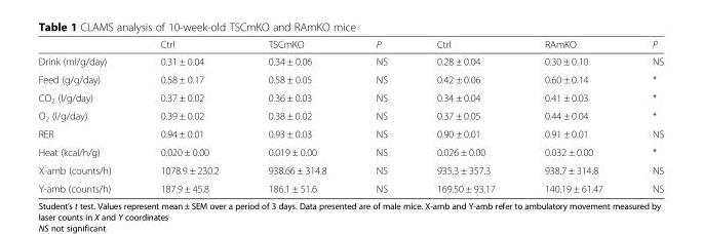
<table><thead><tr><td></td><td>Ctrl</td><td>TSCmKO</td><td>P</td><td>Ctrl</td><td>RAmKO</td><td>P</td></tr></thead><tbody><tr><td>Drink (ml/g/day)</td><td>0.31 ± 0.04</td><td>0.34 ± 0.06</td><td>NS</td><td>0.28 ± 0.04</td><td>0.30 ± 0.10</td><td>NS</td></tr><tr><td>Feed (g/g/day)</td><td>0.58 ± 0.17</td><td>0.58 ± 0.05</td><td>NS</td><td>0.42 ± 0.06</td><td>0.60 ± 0.14</td><td>*</td></tr><tr><td>CO<sub>2</sub> (l/g/day)</td><td>0.37 ± 0.02</td><td>0.36 ± 0.03</td><td>NS</td><td>0.34 ± 0.04</td><td>0.41 ± 0.03</td><td>*</td></tr><tr><td>O<sub>2</sub> (l/g/day)</td><td>0.39 ± 0.02</td><td>0.38 ± 0.02</td><td>NS</td><td>0.37 ± 0.05</td><td>0.44 ± 0.04</td><td>*</td></tr><tr><td>RER</td><td>0.94 ± 0.01</td><td>0.93 ± 0.03</td><td>NS</td><td>0.90 ± 0.01</td><td>0.91 ± 0.01</td><td>NS</td></tr><tr><td>Heat (kcal/h/g)</td><td>0.020 ± 0.00</td><td>0.019 ± 0.00</td><td>NS</td><td>0.026 ± 0.00</td><td>0.032 ± 0.00</td><td>*</td></tr><tr><td>X-amb (counts/h)</td><td>1078.9 ± 230.2</td><td>938.66 ± 314.8</td><td>NS</td><td>935.3 ± 357.3</td><td>938.7 ± 314.8</td><td>NS</td></tr><tr><td>Y-amb (counts/h)</td><td>187.9 ± 45.8</td><td>186.1 ± 51.6</td><td>NS</td><td>169.50 ± 93.17</td><td>140.19 ± 61.47</td><td>NS</td></tr></tbody></table>